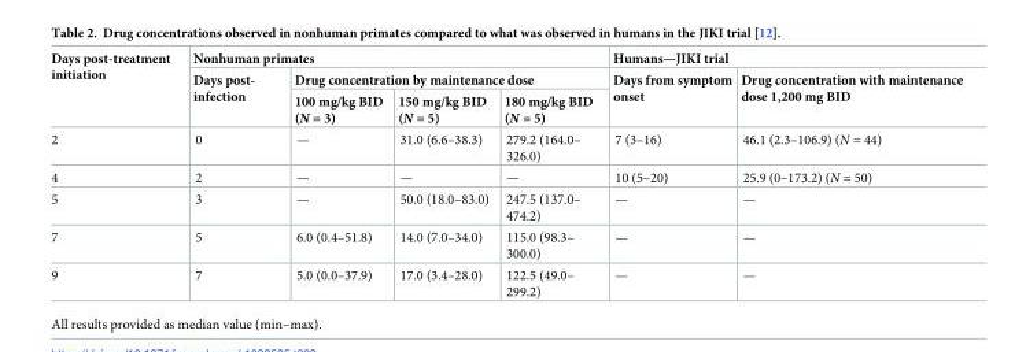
<table><thead><tr><td rowspan="3">Days post-treatment initiation</td><td colspan="4">Nonhuman primates</td><td colspan="2">Humans—JIKI trial</td></tr><tr><td rowspan="2">Days post- infection</td><td colspan="3">Drug concentration by maintenance dose</td><td rowspan="2">Days from symptom onset</td><td rowspan="2">Drug concentration with maintenance dose 1,200 mg BID</td></tr><tr><td>100 mg/kg BID (N = 3)</td><td>150 mg/kg BID (N = 5)</td><td>180 mg/kg BID (N = 5)</td></tr></thead><tbody><tr><td>2</td><td>0</td><td>—</td><td>31.0 (6.6–38.3)</td><td>279.2 (164.0– 326.0)</td><td>7 (3–16)</td><td>46.1 (2.3–106.9) (N = 44)</td></tr><tr><td>4</td><td>2</td><td>—</td><td>—</td><td>—</td><td>10 (5–20)</td><td>25.9 (0–173.2) (N = 50)</td></tr><tr><td>5</td><td>3</td><td>—</td><td>50.0 (18.0–83.0)</td><td>247.5 (137.0– 474.2)</td><td>—</td><td>—</td></tr><tr><td>7</td><td>5</td><td>6.0 (0.4–51.8)</td><td>14.0 (7.0–34.0)</td><td>115.0 (98.3– 300.0)</td><td>—</td><td>—</td></tr><tr><td>9</td><td>7</td><td>5.0 (0.0–37.9)</td><td>17.0 (3.4–28.0)</td><td>122.5 (49.0– 299.2)</td><td>—</td><td>—</td></tr></tbody></table>